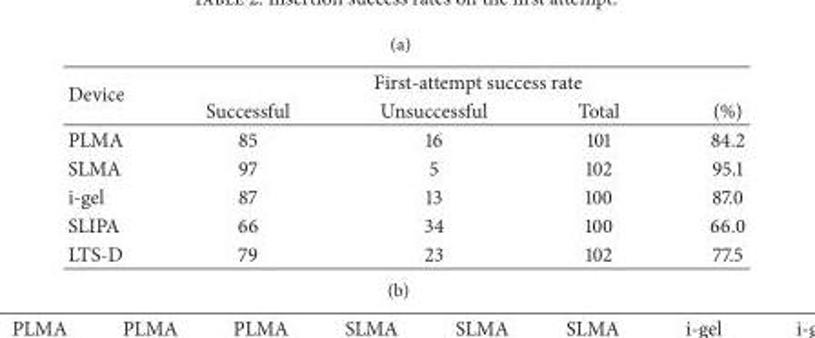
<table><thead><tr><td rowspan="2">Device</td><td colspan="4">First-attempt success rate</td></tr><tr><td>Successful</td><td>Unsuccessful</td><td>Total</td><td>(%)</td></tr></thead><tbody><tr><td>PLMA</td><td>85</td><td>16</td><td>101</td><td>84.2</td></tr><tr><td>SLMA</td><td>97</td><td>5</td><td>102</td><td>95.1</td></tr><tr><td>i-gel</td><td>87</td><td>13</td><td>100</td><td>87.0</td></tr><tr><td>SLIPA</td><td>66</td><td>34</td><td>100</td><td>66.0</td></tr><tr><td>LTS-D</td><td>79</td><td>23</td><td>102</td><td>77.5</td></tr></tbody></table>